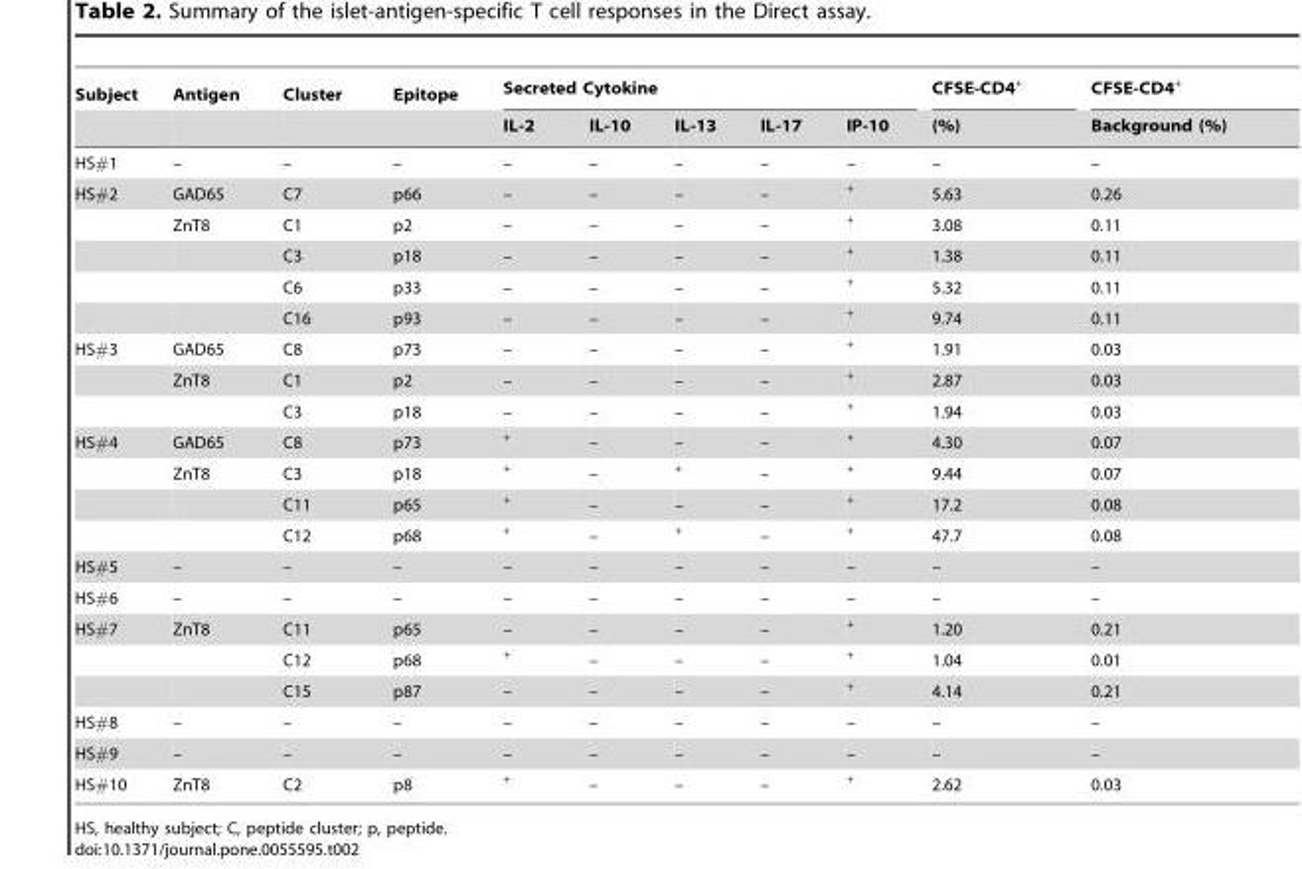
<table><thead><tr><td rowspan="2">Subject</td><td rowspan="2">Antigen</td><td rowspan="2">Cluster</td><td rowspan="2">Epitope</td><td colspan="5">Secreted Cytokine</td><td rowspan="2">CFSE-CD4<sup>+</sup> (%)</td><td rowspan="2">CFSE-CD4<sup>+</sup> Background (%)</td></tr><tr><td>IL-2</td><td>IL-10</td><td>IL-13</td><td>IL-17</td><td>IP-10</td></tr></thead><tbody><tr><td>HS#1</td><td>–</td><td>–</td><td>–</td><td>–</td><td>–</td><td>–</td><td>–</td><td>–</td><td>–</td><td>–</td></tr><tr><td rowspan="5">HS#2</td><td>GAD65</td><td>C7</td><td>p66</td><td>–</td><td>–</td><td>–</td><td>–</td><td><sup>+</sup></td><td>5.63</td><td>0.26</td></tr><tr><td>ZnT8</td><td>C1</td><td>p2</td><td>–</td><td>–</td><td>–</td><td>–</td><td><sup>+</sup></td><td>3.08</td><td>0.11</td></tr><tr><td></td><td>C3</td><td>p18</td><td>–</td><td>–</td><td>–</td><td>–</td><td><sup>+</sup></td><td>1.38</td><td>0.11</td></tr><tr><td></td><td>C6</td><td>p33</td><td>–</td><td>–</td><td>–</td><td>–</td><td><sup>+</sup></td><td>5.32</td><td>0.11</td></tr><tr><td></td><td>C16</td><td>p93</td><td>–</td><td>–</td><td>–</td><td>–</td><td><sup>+</sup></td><td>9.74</td><td>0.11</td></tr><tr><td rowspan="3">HS#3</td><td>GAD65</td><td>C8</td><td>p73</td><td>–</td><td>–</td><td>–</td><td>–</td><td><sup>+</sup></td><td>1.91</td><td>0.03</td></tr><tr><td>ZnT8</td><td>C1</td><td>p2</td><td>–</td><td>–</td><td>–</td><td>–</td><td><sup>+</sup></td><td>2.87</td><td>0.03</td></tr><tr><td></td><td>C3</td><td>p18</td><td>–</td><td>–</td><td>–</td><td>–</td><td><sup>+</sup></td><td>1.94</td><td>0.03</td></tr><tr><td rowspan="4">HS#4</td><td>GAD65</td><td>C8</td><td>p73</td><td><sup>+</sup></td><td>–</td><td>–</td><td>–</td><td><sup>+</sup></td><td>4.30</td><td>0.07</td></tr><tr><td>ZnT8</td><td>C3</td><td>p18</td><td><sup>+</sup></td><td>–</td><td><sup>+</sup></td><td>–</td><td><sup>+</sup></td><td>9.44</td><td>0.07</td></tr><tr><td></td><td>C11</td><td>p65</td><td><sup>+</sup></td><td>–</td><td>–</td><td>–</td><td><sup>+</sup></td><td>17.2</td><td>0.08</td></tr><tr><td></td><td>C12</td><td>p68</td><td><sup>+</sup></td><td>–</td><td><sup>+</sup></td><td>–</td><td><sup>+</sup></td><td>47.7</td><td>0.08</td></tr><tr><td>HS#5</td><td>–</td><td>–</td><td>–</td><td>–</td><td>–</td><td>–</td><td>–</td><td>–</td><td>–</td><td>–</td></tr><tr><td>HS#6</td><td>–</td><td>–</td><td>–</td><td>–</td><td>–</td><td>–</td><td>–</td><td>–</td><td>–</td><td>–</td></tr><tr><td rowspan="3">HS#7</td><td>ZnT8</td><td>C11</td><td>p65</td><td>–</td><td>–</td><td>–</td><td>–</td><td><sup>+</sup></td><td>1.20</td><td>0.21</td></tr><tr><td></td><td>C12</td><td>p68</td><td><sup>+</sup></td><td>–</td><td>–</td><td>–</td><td><sup>+</sup></td><td>1.04</td><td>0.01</td></tr><tr><td></td><td>C15</td><td>p87</td><td>–</td><td>–</td><td>–</td><td>–</td><td><sup>+</sup></td><td>4.14</td><td>0.21</td></tr><tr><td>HS#8</td><td>–</td><td>–</td><td>–</td><td>–</td><td>–</td><td>–</td><td>–</td><td>–</td><td>–</td><td>–</td></tr><tr><td>HS#9</td><td>–</td><td>–</td><td>–</td><td>–</td><td>–</td><td>–</td><td>–</td><td>–</td><td>–</td><td>–</td></tr><tr><td>HS#10</td><td>ZnT8</td><td>C2</td><td>p8</td><td><sup>+</sup></td><td>–</td><td>–</td><td>–</td><td><sup>+</sup></td><td>2.62</td><td>0.03</td></tr></tbody></table>